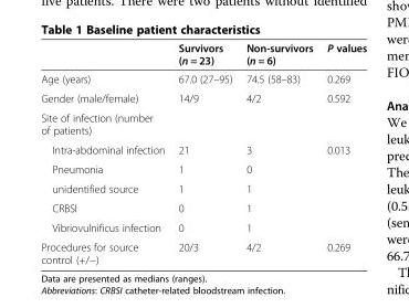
<table><thead><tr><td></td><td>Survivors (n = 23)</td><td>Non-survivors (n = 6)</td><td>P values</td></tr></thead><tbody><tr><td>Age (years)</td><td>67.0 (27–95)</td><td>74.5 (58–83)</td><td>0.269</td></tr><tr><td>Gender (male/female)</td><td>14/9</td><td>4/2</td><td>0.592</td></tr><tr><td colspan="4">Site of infection (number of patients)</td></tr><tr><td>Intra-abdominal infection</td><td>21</td><td>3</td><td>0.013</td></tr><tr><td>Pneumonia</td><td>1</td><td>0</td><td></td></tr><tr><td>unidentified source</td><td>1</td><td>1</td><td></td></tr><tr><td>CRBSI</td><td>0</td><td>1</td><td></td></tr><tr><td>Vibriovulnificus infection</td><td>0</td><td>1</td><td></td></tr><tr><td>Procedures for source control (+/−)</td><td>20/3</td><td>4/2</td><td>0.269</td></tr></tbody></table>